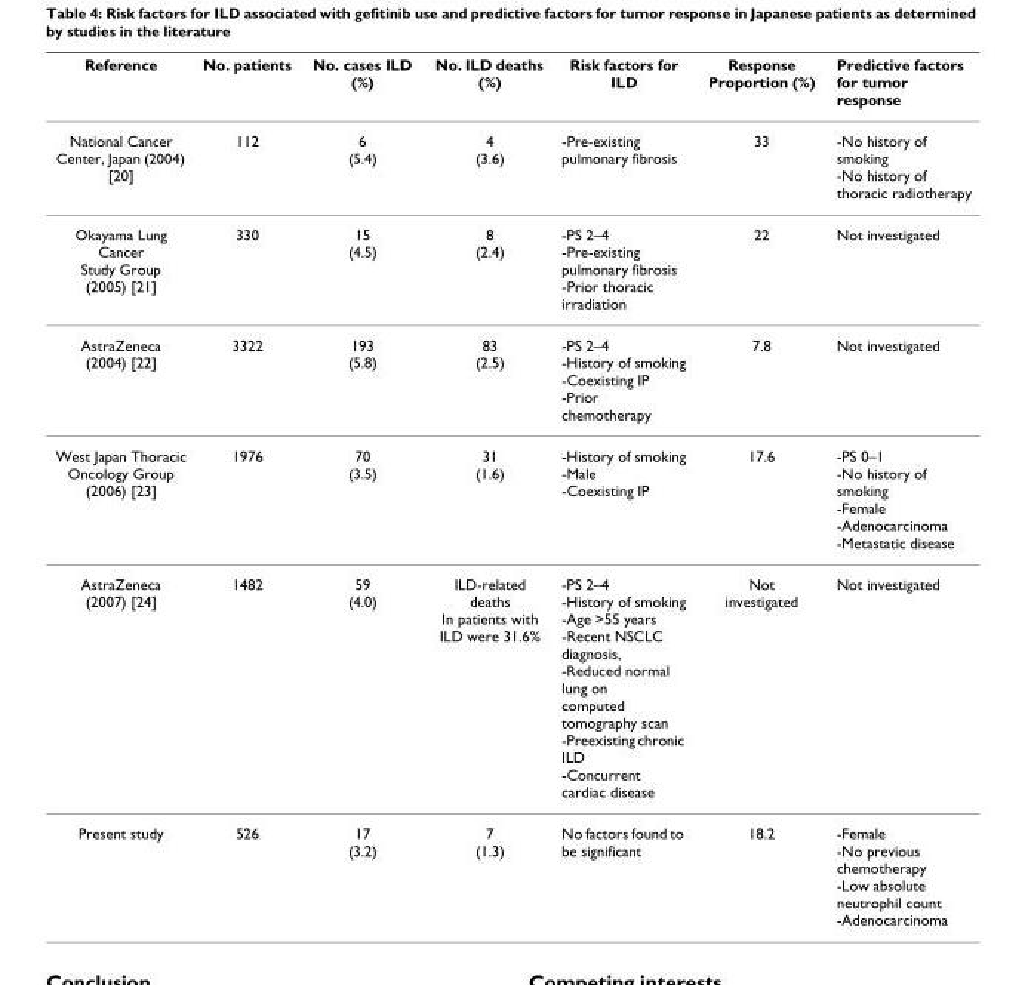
<table><thead><tr><td>Reference</td><td>No. patients</td><td>No. cases ILD (%)</td><td>No. ILD deaths (%)</td><td>Risk factors for ILD</td><td>Response Proportion (%)</td><td>Predictive factors for tumor response</td></tr></thead><tbody><tr><td>National Cancer Center, Japan (2004) [20]</td><td>112</td><td>6 (5.4)</td><td>4 (3.6)</td><td>-Pre-existing pulmonary fibrosis</td><td>33</td><td>-No history of smoking -No history of thoracic radiotherapy</td></tr><tr><td>Okayama Lung Cancer Study Group (2005) [21]</td><td>330</td><td>15 (4.5)</td><td>8 (2.4)</td><td>-PS 2–4 -Pre-existing pulmonary fibrosis -Prior thoracic irradiation</td><td>22</td><td>Not investigated</td></tr><tr><td>AstraZeneca (2004) [22]</td><td>3322</td><td>193 (5.8)</td><td>83 (2.5)</td><td>-PS 2–4 -History of smoking -Coexisting IP -Prior chemotherapy</td><td>7.8</td><td>Not investigated</td></tr><tr><td>West Japan Thoracic Oncology Group (2006) [23]</td><td>1976</td><td>70 (3.5)</td><td>31 (1.6)</td><td>-History of smoking -Male -Coexisting IP</td><td>17.6</td><td>-PS 0–1 -No history of smoking -Female -Adenocarcinoma -Metastatic disease</td></tr><tr><td>AstraZeneca (2007) [24]</td><td>1482</td><td>59 (4.0)</td><td>ILD-related deaths In patients with ILD were 31.6%</td><td>-PS 2–4 -History of smoking -Age &gt;55 years -Recent NSCLC diagnosis, -Reduced normal lung on computed tomography scan -Preexisting chronic ILD -Concurrent cardiac disease</td><td>Not investigated</td><td>Not investigated</td></tr><tr><td>Present study</td><td>526</td><td>17 (3.2)</td><td>7 (1.3)</td><td>No factors found to be significant</td><td>18.2</td><td>-Female -No previous chemotherapy -Low absolute neutrophil count -Adenocarcinoma</td></tr></tbody></table>